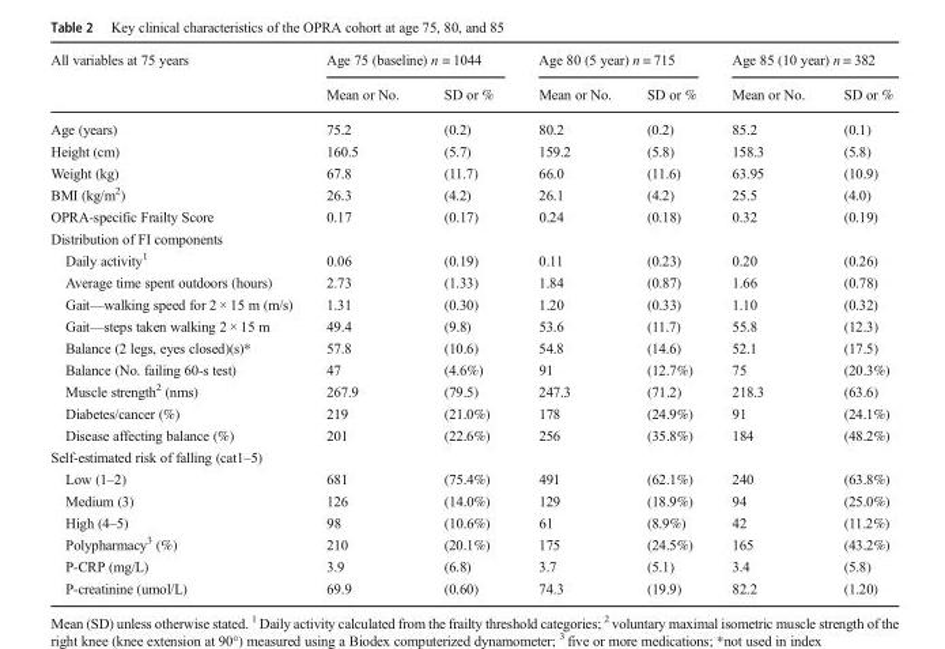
<table><thead><tr><td rowspan="2">All variables at 75 years</td><td colspan="2">Age 75 (baseline) n = 1044</td><td colspan="2">Age 80 (5 year) n = 715</td><td colspan="2">Age 85 (10 year) n = 382</td></tr><tr><td>Mean or No.</td><td>SD or %</td><td>Mean or No.</td><td>SD or %</td><td>Mean or No.</td><td>SD or %</td></tr></thead><tbody><tr><td>Age (years)</td><td>75.2</td><td>(0.2)</td><td>80.2</td><td>(0.2)</td><td>85.2</td><td>(0.1)</td></tr><tr><td>Height (cm)</td><td>160.5</td><td>(5.7)</td><td>159.2</td><td>(5.8)</td><td>158.3</td><td>(5.8)</td></tr><tr><td>Weight (kg)</td><td>67.8</td><td>(11.7)</td><td>66.0</td><td>(11.6)</td><td>63.95</td><td>(10.9)</td></tr><tr><td>BMI (kg/m<sup>2</sup>)</td><td>26.3</td><td>(4.2)</td><td>26.1</td><td>(4.2)</td><td>25.5</td><td>(4.0)</td></tr><tr><td>OPRA-specific Frailty Score</td><td>0.17</td><td>(0.17)</td><td>0.24</td><td>(0.18)</td><td>0.32</td><td>(0.19)</td></tr><tr><td colspan="7">Distribution of FI components</td></tr><tr><td>Daily activity<sup>1</sup></td><td>0.06</td><td>(0.19)</td><td>0.11</td><td>(0.23)</td><td>0.20</td><td>(0.26)</td></tr><tr><td>Average time spent outdoors (hours)</td><td>2.73</td><td>(1.33)</td><td>1.84</td><td>(0.87)</td><td>1.66</td><td>(0.78)</td></tr><tr><td>Gait—walking speed for 2 × 15 m (m/s)</td><td>1.31</td><td>(0.30)</td><td>1.20</td><td>(0.33)</td><td>1.10</td><td>(0.32)</td></tr><tr><td>Gait—steps taken walking 2 × 15 m</td><td>49.4</td><td>(9.8)</td><td>53.6</td><td>(11.7)</td><td>55.8</td><td>(12.3)</td></tr><tr><td>Balance (2 legs, eyes closed)(s)*</td><td>57.8</td><td>(10.6)</td><td>54.8</td><td>(14.6)</td><td>52.1</td><td>(17.5)</td></tr><tr><td>Balance (No. failing 60-s test)</td><td>47</td><td>(4.6%)</td><td>91</td><td>(12.7%)</td><td>75</td><td>(20.3%)</td></tr><tr><td>Muscle strength<sup>2</sup> (nms)</td><td>267.9</td><td>(79.5)</td><td>247.3</td><td>(71.2)</td><td>218.3</td><td>(63.6)</td></tr><tr><td>Diabetes/cancer (%)</td><td>219</td><td>(21.0%)</td><td>178</td><td>(24.9%)</td><td>91</td><td>(24.1%)</td></tr><tr><td>Disease affecting balance (%)</td><td>201</td><td>(22.6%)</td><td>256</td><td>(35.8%)</td><td>184</td><td>(48.2%)</td></tr><tr><td colspan="7">Self-estimated risk of falling (cat1–5)</td></tr><tr><td>Low (1–2)</td><td>681</td><td>(75.4%)</td><td>491</td><td>(62.1%)</td><td>240</td><td>(63.8%)</td></tr><tr><td>Medium (3)</td><td>126</td><td>(14.0%)</td><td>129</td><td>(18.9%)</td><td>94</td><td>(25.0%)</td></tr><tr><td>High (4–5)</td><td>98</td><td>(10.6%)</td><td>61</td><td>(8.9%)</td><td>42</td><td>(11.2%)</td></tr><tr><td>Polypharmacy<sup>3</sup> (%)</td><td>210</td><td>(20.1%)</td><td>175</td><td>(24.5%)</td><td>165</td><td>(43.2%)</td></tr><tr><td>P-CRP (mg/L)</td><td>3.9</td><td>(6.8)</td><td>3.7</td><td>(5.1)</td><td>3.4</td><td>(5.8)</td></tr><tr><td>P-creatinine (umol/L)</td><td>69.9</td><td>(0.60)</td><td>74.3</td><td>(19.9)</td><td>82.2</td><td>(1.20)</td></tr></tbody></table>